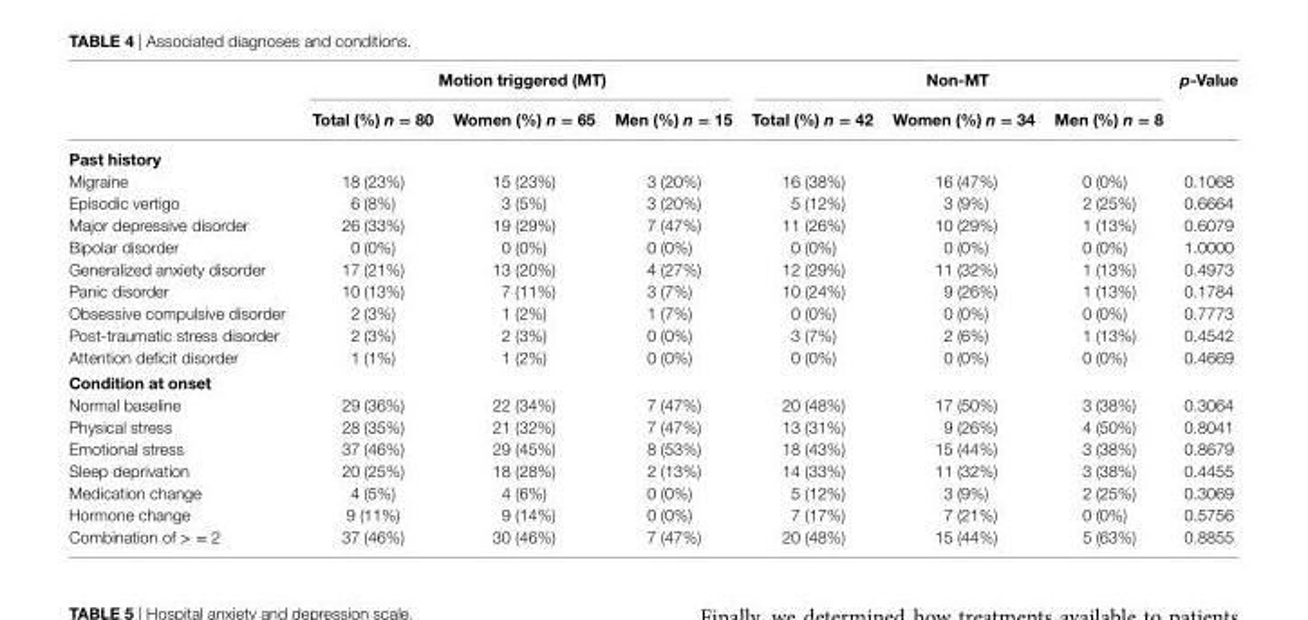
<table><thead><tr><td rowspan="2"></td><td colspan="3">Motion triggered (MT)</td><td colspan="3">non-MT</td><td rowspan="2">p-Value</td></tr><tr><td>Total (%) n = 80</td><td>Women (%) n = 65</td><td>Men (%) n = 15</td><td>Total (%) n = 42</td><td>Women (%) n = 34</td><td>Men (%) n = 8</td></tr></thead><tbody><tr><td colspan="8">Past history</td></tr><tr><td>Migraine</td><td>18 (23%)</td><td>15 (23%)</td><td>3 (20%)</td><td>16 (38%)</td><td>16 (47%)</td><td>0 (0%)</td><td>0.1068</td></tr><tr><td>Episodic vertigo</td><td>6 (8%)</td><td>3 (5%)</td><td>3 (20%)</td><td>5 (12%)</td><td>3 (9%)</td><td>2 (25%)</td><td>0.6664</td></tr><tr><td>Major depressive disorder</td><td>26 (33%)</td><td>19 (29%)</td><td>7 (47%)</td><td>11 (26%)</td><td>10 (29%)</td><td>1 (13%)</td><td>0.6079</td></tr><tr><td>Bipolar disorder</td><td>0 (0%)</td><td>0 (0%)</td><td>0 (0%)</td><td>0 (0%)</td><td>0 (0%)</td><td>0 (0%)</td><td>1.0000</td></tr><tr><td>Generalized anxiety disorder</td><td>17 (21%)</td><td>13 (20%)</td><td>4 (27%)</td><td>12 (29%)</td><td>11 (32%)</td><td>1 (13%)</td><td>0.4973</td></tr><tr><td>Panic disorder</td><td>10 (13%)</td><td>7 (11%)</td><td>3 (7%)</td><td>10 (24%)</td><td>9 (26%)</td><td>1 (13%)</td><td>0.1784</td></tr><tr><td>Obsessive compulsive disorder</td><td>2 (3%)</td><td>1 (2%)</td><td>1 (7%)</td><td>0 (0%)</td><td>0 (0%)</td><td>0 (0%)</td><td>0.7773</td></tr><tr><td>Post-traumatic stress disorder</td><td>2 (3%)</td><td>2 (3%)</td><td>0 (0%)</td><td>3 (7%)</td><td>2 (6%)</td><td>1 (13%)</td><td>0.4542</td></tr><tr><td>Attention deficit disorder</td><td>1 (1%)</td><td>1 (2%)</td><td>0 (0%)</td><td>0 (0%)</td><td>0 (0%)</td><td>0 (0%)</td><td>0.4669</td></tr><tr><td colspan="8">condition at onset</td></tr><tr><td>Normal baseline</td><td>29 (36%)</td><td>22 (34%)</td><td>7 (47%)</td><td>20 (48%)</td><td>17 (50%)</td><td>3 (38%)</td><td>0.3064</td></tr><tr><td>Physical stress</td><td>28 (35%)</td><td>21 (32%)</td><td>7 (47%)</td><td>13 (31%)</td><td>9 (26%)</td><td>4 (50%)</td><td>0.8041</td></tr><tr><td>Emotional stress</td><td>37 (46%)</td><td>29 (45%)</td><td>8 (53%)</td><td>18 (43%)</td><td>15 (44%)</td><td>3 (38%)</td><td>0.8679</td></tr><tr><td>Sleep deprivation</td><td>20 (25%)</td><td>18 (28%)</td><td>2 (13%)</td><td>14 (33%)</td><td>11 (32%)</td><td>3 (38%)</td><td>0.4455</td></tr><tr><td>Medication change</td><td>4 (5%)</td><td>4 (6%)</td><td>0 (0%)</td><td>5 (12%)</td><td>3 (9%)</td><td>2 (25%)</td><td>0.3069</td></tr><tr><td>Hormone change</td><td>9 (11%)</td><td>9 (14%)</td><td>0 (0%)</td><td>7 (17%)</td><td>7 (21%)</td><td>0 (0%)</td><td>0.5756</td></tr><tr><td>Combination of &gt; = 2</td><td>37 (46%)</td><td>30 (46%)</td><td>7 (47%)</td><td>20 (48%)</td><td>15 (44%)</td><td>5 (63%)</td><td>0.8855</td></tr></tbody></table>